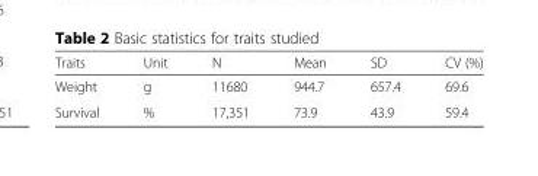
<table><thead><tr><td>Traits</td><td>Unit</td><td>N</td><td>Mean</td><td>SD</td><td>CV (%)</td></tr></thead><tbody><tr><td>Weight</td><td>g</td><td>11680</td><td>944.7</td><td>657.4</td><td>69.6</td></tr><tr><td>Survival</td><td>%</td><td>17,351</td><td>73.9</td><td>43.9</td><td>59.4</td></tr></tbody></table>